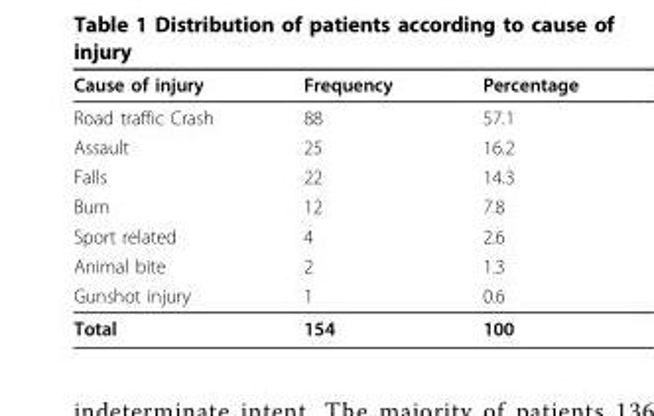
<table><thead><tr><td>Cause of injury</td><td>Frequency</td><td>Percentage</td></tr></thead><tbody><tr><td>Road traffic Crash</td><td>88</td><td>57.1</td></tr><tr><td>Assault</td><td>25</td><td>16.2</td></tr><tr><td>Falls</td><td>22</td><td>14.3</td></tr><tr><td>Burn</td><td>12</td><td>7.8</td></tr><tr><td>Sport related</td><td>4</td><td>2.6</td></tr><tr><td>Animal bite</td><td>2</td><td>1.3</td></tr><tr><td>Gunshot injury</td><td>1</td><td>0.6</td></tr><tr><td>Total</td><td>154</td><td>100</td></tr></tbody></table>